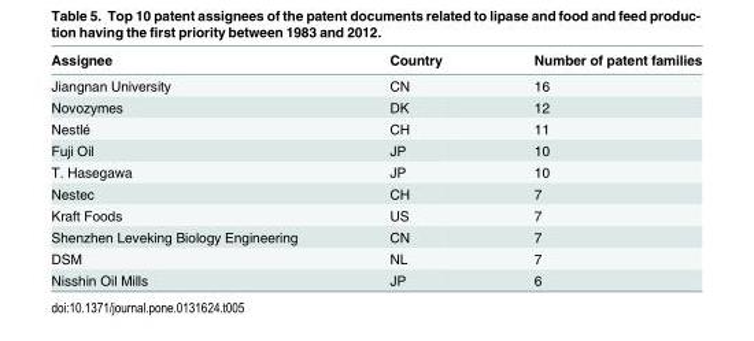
<table><thead><tr><td>Assignee</td><td>Country</td><td>Number of patent families</td></tr></thead><tbody><tr><td>Jiangnan University</td><td>CN</td><td>16</td></tr><tr><td>Novozymes</td><td>DK</td><td>12</td></tr><tr><td>Nestlé</td><td>CH</td><td>11</td></tr><tr><td>Fuji Oil</td><td>JP</td><td>10</td></tr><tr><td>T. Hasegawa</td><td>JP</td><td>10</td></tr><tr><td>Nestec</td><td>CH</td><td>7</td></tr><tr><td>Kraft Foods</td><td>US</td><td>7</td></tr><tr><td>Shenzhen Leveking Biology Engineering</td><td>CN</td><td>7</td></tr><tr><td>DSM</td><td>NL</td><td>7</td></tr><tr><td>Nisshin Oil Mills</td><td>JP</td><td>6</td></tr></tbody></table>